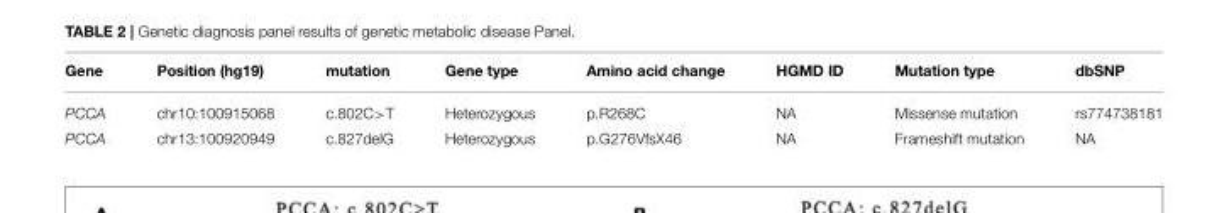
<table><thead><tr><td>Gene</td><td>Position (hg19)</td><td>mutation</td><td>Gene type</td><td>Amino acid change</td><td>HGMD ID</td><td>Mutation type</td><td>dbSNP</td></tr></thead><tbody><tr><td>PCCA</td><td>chr10:100915068</td><td>c.802C&gt;T</td><td>Heterozygous</td><td>p.R268C</td><td>NA</td><td>Missense mutation</td><td>rs774738181</td></tr><tr><td>PCCA</td><td>chr13:100920949</td><td>c.827delG</td><td>Heterozygous</td><td>p.G276VfsX46</td><td>NA</td><td>Frameshift mutation</td><td>NA</td></tr></tbody></table>